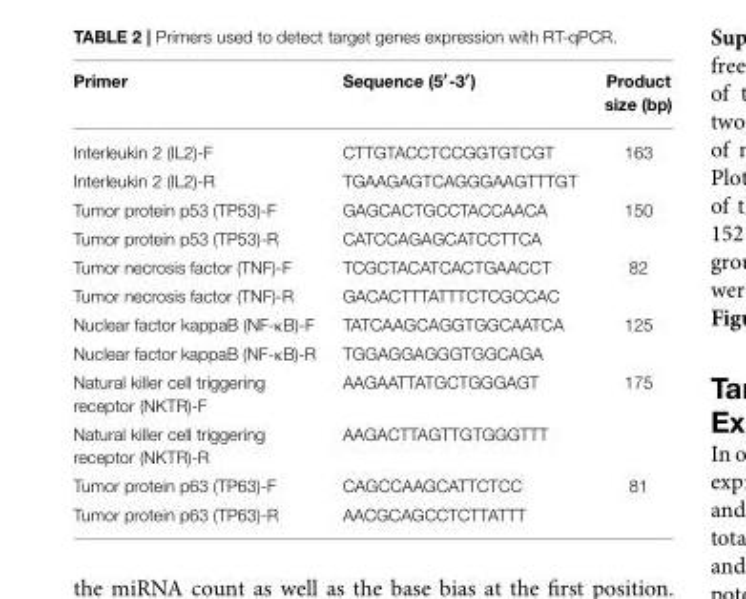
<table><thead><tr><td>Primer</td><td>Sequence (5′-3′)</td><td>Product size (bp)</td></tr></thead><tbody><tr><td>Interleukin 2 (IL2)-F</td><td>CTTGTACCTCCGGTGTCGT</td><td>163</td></tr><tr><td>Interleukin 2 (IL2)-R</td><td>TGAAGAGTCAGGGAAGTTTGT</td><td></td></tr><tr><td>Tumor protein p53 (TP53)-F</td><td>GAGCACTGCCTACCAACA</td><td>150</td></tr><tr><td>Tumor protein p53 (TP53)-R</td><td>CATCCAGAGCATCCTTCA</td><td></td></tr><tr><td>Tumor necrosis factor (TNF)-F</td><td>TCGCTACATCACTGAACCT</td><td>82</td></tr><tr><td>Tumor necrosis factor (TNF)-R</td><td>GACACTTTATTTCTCGCCAC</td><td></td></tr><tr><td>Nuclear factor kappaB (NF-κB)-F</td><td>TATCAAGCAGGTGGCAATCA</td><td>125</td></tr><tr><td>Nuclear factor kappaB (NF-κB)-R</td><td>TGGAGGAGGGTGGCAGA</td><td></td></tr><tr><td>Natural killer cell triggering receptor (NKTR)-F</td><td>AAGAATTATGCTGGGAGT</td><td>175</td></tr><tr><td>Natural killer cell triggering receptor (NKTR)-R</td><td>AAGACTTAGTTGTGGGTTT</td><td></td></tr><tr><td>Tumor protein p63 (TP63)-F</td><td>CAGCCAAGCATTCTCC</td><td>81</td></tr><tr><td>Tumor protein p63 (TP63)-R</td><td>AACGCAGCCTCTTATTT</td><td></td></tr></tbody></table>